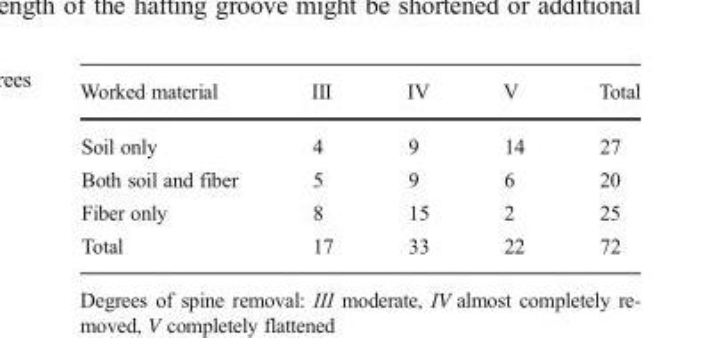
<table><thead><tr><td>Worked material</td><td>III</td><td>IV</td><td>V</td><td>Total</td></tr></thead><tbody><tr><td>Soil only</td><td>4</td><td>9</td><td>14</td><td>27</td></tr><tr><td>Both soil and fiber</td><td>5</td><td>9</td><td>6</td><td>20</td></tr><tr><td>Fiber only</td><td>8</td><td>15</td><td>2</td><td>25</td></tr><tr><td>Total</td><td>17</td><td>33</td><td>22</td><td>72</td></tr></tbody></table>